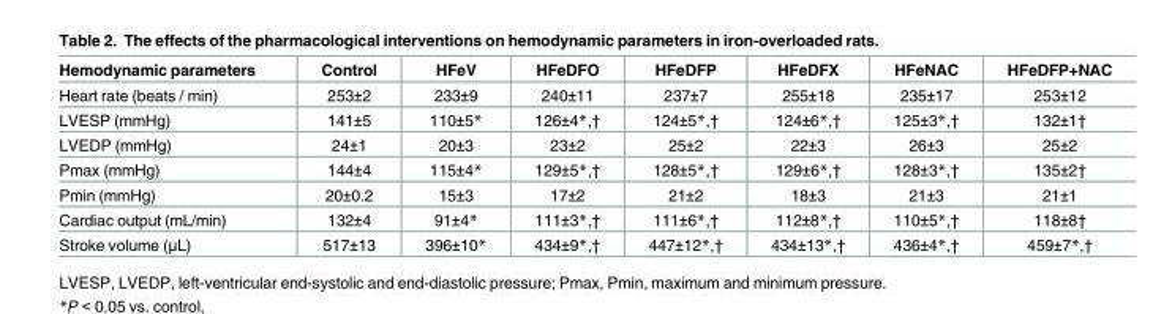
<table><thead><tr><td>Hemodynamic parameters</td><td>Control</td><td>HFeV</td><td>HFeDFO</td><td>HFeDFP</td><td>HFeDFX</td><td>HFeNAC</td><td>HFeDFP+NAC</td></tr></thead><tbody><tr><td>Heart rate (beats / min)</td><td>253±2</td><td>233±9</td><td>240±11</td><td>237±7</td><td>255±18</td><td>235±17</td><td>253±12</td></tr><tr><td>LVESP (mmHg)</td><td>141±5</td><td>110±5*</td><td>126±4*,†</td><td>124±5*,†</td><td>124±6*,†</td><td>125±3*,†</td><td>132±1†</td></tr><tr><td>LVEDP (mmHg)</td><td>24±1</td><td>20±3</td><td>23±2</td><td>25±2</td><td>22±3</td><td>26±3</td><td>25±2</td></tr><tr><td>Pmax (mmHg)</td><td>144±4</td><td>115±4*</td><td>129±5*,†</td><td>128±5*,†</td><td>129±6*,†</td><td>128±3*,†</td><td>135±2†</td></tr><tr><td>Pmin (mmHg)</td><td>20±0.2</td><td>15±3</td><td>17±2</td><td>21±2</td><td>18±3</td><td>21±3</td><td>21±1</td></tr><tr><td>Cardiac output (mL/min)</td><td>132±4</td><td>91±4*</td><td>111±3*,†</td><td>111±6*,†</td><td>112±8*,†</td><td>110±5*,†</td><td>118±8†</td></tr><tr><td>Stroke volume (μL)</td><td>517±13</td><td>396±10*</td><td>434±9*,†</td><td>447±12*,†</td><td>434±13*,†</td><td>436±4*,†</td><td>459±7*,†</td></tr></tbody></table>